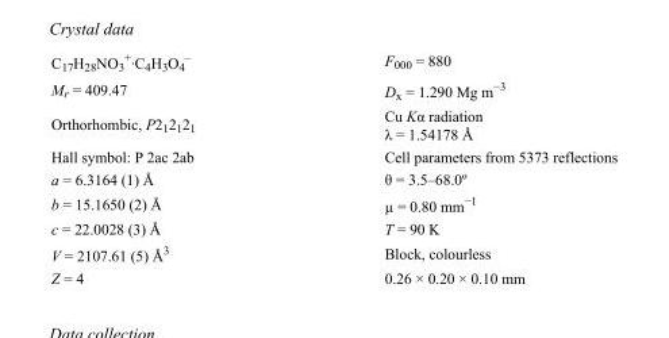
<table><tbody><tr><td>C<sub>17</sub>H<sub>28</sub>NO<sub>3</sub> <sup>+</sup>·C<sub>4</sub>H<sub>3</sub>O<sub>4</sub> <sup>–</sup></td><td>F000 = 880</td></tr><tr><td>M<sub>r</sub> = 409.47</td><td>D<sub>x</sub> = 1.290 Mg m<sup>−3</sup></td></tr><tr><td>Orthorhombic, P2<sub>1</sub>2<sub>1</sub>2<sub>1</sub></td><td>Cu Kα radiation λ = 1.54178 Å</td></tr><tr><td>Hall symbol: P 2ac 2ab</td><td>Cell parameters from 5373 reflections</td></tr><tr><td>a = 6.3164 (1) Å</td><td>θ = 3.5–68.0º</td></tr><tr><td>b = 15.1650 (2) Å</td><td>µ = 0.80 mm<sup>−1</sup></td></tr><tr><td>c = 22.0028 (3) Å</td><td>T = 90 K</td></tr><tr><td>V = 2107.61 (5) Å<sup>3</sup></td><td>Block, colourless</td></tr><tr><td>Z = 4</td><td>0.26 × 0.20 × 0.10 mm</td></tr></tbody></table>